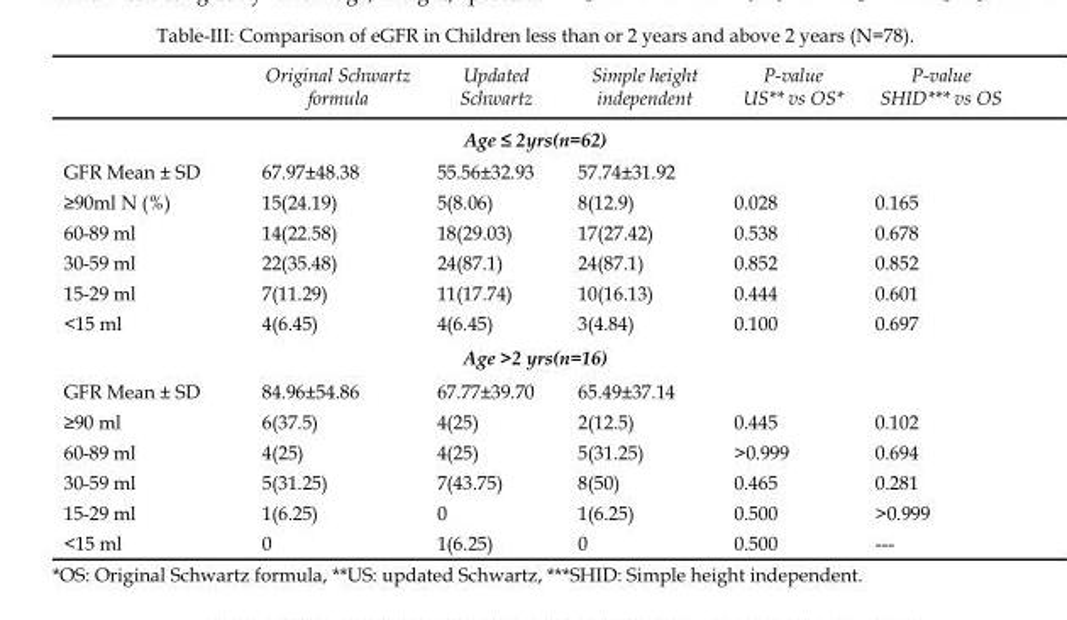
<table><thead><tr><td></td><td>Original Schwartz formula</td><td>Updated Schwartz</td><td>Simple height independent</td><td>P-value US** vs OS*</td><td>P-value SHID*** vs OS</td></tr></thead><tbody><tr><td colspan="6">Age ≤ 2yrs(n=62)</td></tr><tr><td>GFR Mean ± SD</td><td>67.97±48.38</td><td>55.56±32.93</td><td>57.74±31.92</td><td></td><td></td></tr><tr><td>≥90ml N (%)</td><td>15(24.19)</td><td>5(8.06)</td><td>8(12.9)</td><td>0.028</td><td>0.165</td></tr><tr><td>60-89 ml</td><td>14(22.58)</td><td>18(29.03)</td><td>17(27.42)</td><td>0.538</td><td>0.678</td></tr><tr><td>30-59 ml</td><td>22(35.48)</td><td>24(87.1)</td><td>24(87.1)</td><td>0.852</td><td>0.852</td></tr><tr><td>15-29 ml</td><td>7(11.29)</td><td>11(17.74)</td><td>10(16.13)</td><td>0.444</td><td>0.601</td></tr><tr><td>&lt;15 ml</td><td>4(6.45)</td><td>4(6.45)</td><td>3(4.84)</td><td>0.100</td><td>0.697</td></tr><tr><td colspan="6">Age &gt;2 yrs(n=16)</td></tr><tr><td>GFR Mean ± SD</td><td>84.96±54.86</td><td>67.77±39.70</td><td>65.49±37.14</td><td></td><td></td></tr><tr><td>≥90 ml</td><td>6(37.5)</td><td>4(25)</td><td>2(12.5)</td><td>0.445</td><td>0.102</td></tr><tr><td>60-89 ml</td><td>4(25)</td><td>4(25)</td><td>5(31.25)</td><td>&gt;0.999</td><td>0.694</td></tr><tr><td>30-59 ml</td><td>5(31.25)</td><td>7(43.75)</td><td>8(50)</td><td>0.465</td><td>0.281</td></tr><tr><td>15-29 ml</td><td>1(6.25)</td><td>0</td><td>1(6.25)</td><td>0.500</td><td>&gt;0.999</td></tr><tr><td>&lt;15 ml</td><td>0</td><td>1(6.25)</td><td>0</td><td>0.500</td><td>---</td></tr></tbody></table>